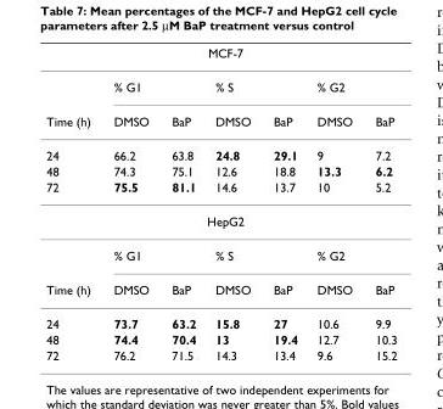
<table><thead><tr><td colspan="7">MCF-7</td></tr><tr><td rowspan="2">Time (h)</td><td colspan="2">% G1</td><td colspan="2">% S</td><td colspan="2">% G2</td></tr><tr><td>DMSO</td><td>BaP</td><td>DMSO</td><td>BaP</td><td>DMSO</td><td>BaP</td></tr></thead><tbody><tr><td>24</td><td>66.2</td><td>63.8</td><td>24.8</td><td>29.1</td><td>9</td><td>7.2</td></tr><tr><td>48</td><td>74.3</td><td>75.1</td><td>12.6</td><td>18.8</td><td>13.3</td><td>6.2</td></tr><tr><td>72</td><td>75.5</td><td>81.1</td><td>14.6</td><td>13.7</td><td>10</td><td>5.2</td></tr><tr><td colspan="7">HepG2</td></tr><tr><td></td><td colspan="2">% G1</td><td colspan="2">% S</td><td colspan="2">% G2</td></tr><tr><td>Time (h)</td><td>DMSO</td><td>BaP</td><td>DMSO</td><td>BaP</td><td>DMSO</td><td>BaP</td></tr><tr><td>24</td><td>73.7</td><td>63.2</td><td>15.8</td><td>27</td><td>10.6</td><td>9.9</td></tr><tr><td>48</td><td>74.4</td><td>70.4</td><td>13</td><td>19.4</td><td>12.7</td><td>10.3</td></tr><tr><td>72</td><td>76.2</td><td>71.5</td><td>14.3</td><td>13.4</td><td>9.6</td><td>15.2</td></tr></tbody></table>